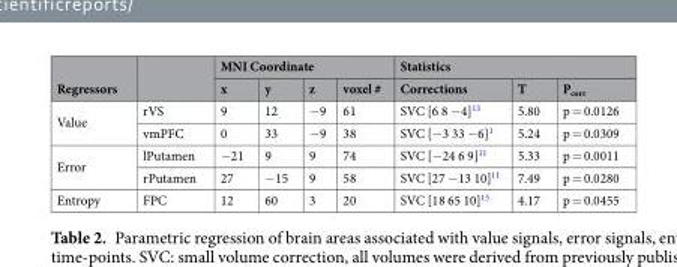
<table><thead><tr><td rowspan="2">Regressors</td><td rowspan="2"></td><td colspan="4">MNI Coordinate</td><td colspan="3">Statistics</td></tr><tr><td>x</td><td>y</td><td>z</td><td>voxel #</td><td>Corrections</td><td>T</td><td>P<sub>corr</sub></td></tr></thead><tbody><tr><td rowspan="2">Value</td><td>rVS</td><td>9</td><td>12</td><td>−9</td><td>61</td><td>SVC [6 8 −4]<sup>13</sup></td><td>5.80</td><td>p = 0.0126</td></tr><tr><td>vmPFC</td><td>0</td><td>33</td><td>−9</td><td>38</td><td>SVC [−3 33 −6]<sup>1</sup></td><td>5.24</td><td>p = 0.0309</td></tr><tr><td rowspan="2">Error</td><td>lPutamen</td><td>−21</td><td>9</td><td>9</td><td>74</td><td>SVC [−24 6 9]<sup>11</sup></td><td>5.33</td><td>p = 0.0011</td></tr><tr><td>rPutamen</td><td>27</td><td>−15</td><td>9</td><td>58</td><td>SVC [27 −13 10]<sup>11</sup></td><td>7.49</td><td>p = 0.0280</td></tr><tr><td>Entropy</td><td>FPC</td><td>12</td><td>60</td><td>3</td><td>20</td><td>SVC [18 65 10]<sup>15</sup></td><td>4.17</td><td>p = 0.0455</td></tr></tbody></table>